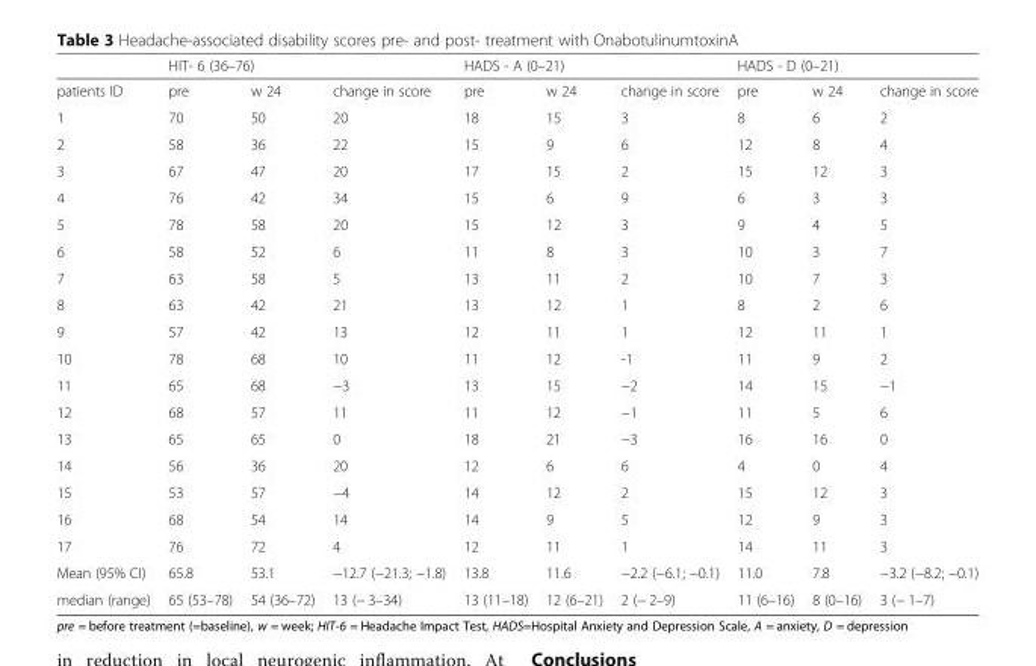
<table><thead><tr><td rowspan="2">patients ID</td><td colspan="3">HIT- 6 (36–76)</td><td colspan="3">HADS - A (0–21)</td><td colspan="3">HADS - D (0–21)</td></tr><tr><td>pre</td><td>w 24</td><td>change in score</td><td>pre</td><td>w 24</td><td>change in score</td><td>pre</td><td>w 24</td><td>change in score</td></tr></thead><tbody><tr><td>1</td><td>70</td><td>50</td><td>20</td><td>18</td><td>15</td><td>3</td><td>8</td><td>6</td><td>2</td></tr><tr><td>2</td><td>58</td><td>36</td><td>22</td><td>15</td><td>9</td><td>6</td><td>12</td><td>8</td><td>4</td></tr><tr><td>3</td><td>67</td><td>47</td><td>20</td><td>17</td><td>15</td><td>2</td><td>15</td><td>12</td><td>3</td></tr><tr><td>4</td><td>76</td><td>42</td><td>34</td><td>15</td><td>6</td><td>9</td><td>6</td><td>3</td><td>3</td></tr><tr><td>5</td><td>78</td><td>58</td><td>20</td><td>15</td><td>12</td><td>3</td><td>9</td><td>4</td><td>5</td></tr><tr><td>6</td><td>58</td><td>52</td><td>6</td><td>11</td><td>8</td><td>3</td><td>10</td><td>3</td><td>7</td></tr><tr><td>7</td><td>63</td><td>58</td><td>5</td><td>13</td><td>11</td><td>2</td><td>10</td><td>7</td><td>3</td></tr><tr><td>8</td><td>63</td><td>42</td><td>21</td><td>13</td><td>12</td><td>1</td><td>8</td><td>2</td><td>6</td></tr><tr><td>9</td><td>57</td><td>42</td><td>13</td><td>12</td><td>11</td><td>1</td><td>12</td><td>11</td><td>1</td></tr><tr><td>10</td><td>78</td><td>68</td><td>10</td><td>11</td><td>12</td><td>-1</td><td>11</td><td>9</td><td>2</td></tr><tr><td>11</td><td>65</td><td>68</td><td>−3</td><td>13</td><td>15</td><td>−2</td><td>14</td><td>15</td><td>−1</td></tr><tr><td>12</td><td>68</td><td>57</td><td>11</td><td>11</td><td>12</td><td>−1</td><td>11</td><td>5</td><td>6</td></tr><tr><td>13</td><td>65</td><td>65</td><td>0</td><td>18</td><td>21</td><td>−3</td><td>16</td><td>16</td><td>0</td></tr><tr><td>14</td><td>56</td><td>36</td><td>20</td><td>12</td><td>6</td><td>6</td><td>4</td><td>0</td><td>4</td></tr><tr><td>15</td><td>53</td><td>57</td><td>−4</td><td>14</td><td>12</td><td>2</td><td>15</td><td>12</td><td>3</td></tr><tr><td>16</td><td>68</td><td>54</td><td>14</td><td>14</td><td>9</td><td>5</td><td>12</td><td>9</td><td>3</td></tr><tr><td>17</td><td>76</td><td>72</td><td>4</td><td>12</td><td>11</td><td>1</td><td>14</td><td>11</td><td>3</td></tr><tr><td>Mean (95% CI)</td><td>65.8</td><td>53.1</td><td>−12.7 (−21.3; −1.8)</td><td>13.8</td><td>11.6</td><td>−2.2 (−6.1; −0.1)</td><td>11.0</td><td>7.8</td><td>−3.2 (−8.2; −0.1)</td></tr><tr><td>median (range)</td><td>65 (53–78)</td><td>54 (36–72)</td><td>13 (− 3–34)</td><td>13 (11–18)</td><td>12 (6–21)</td><td>2 (− 2–9)</td><td>11 (6–16)</td><td>8 (0–16)</td><td>3 (− 1–7)</td></tr></tbody></table>